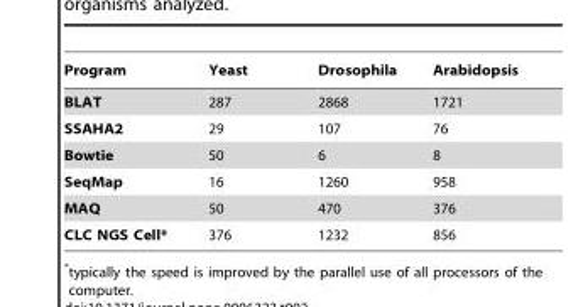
<table><thead><tr><td>Program</td><td>Yeast</td><td>Drosophila</td><td>Arabidopsis</td></tr></thead><tbody><tr><td>BLAT</td><td>287</td><td>2868</td><td>1721</td></tr><tr><td>SSAHA2</td><td>29</td><td>107</td><td>76</td></tr><tr><td>Bowtie</td><td>50</td><td>6</td><td>8</td></tr><tr><td>SeqMap</td><td>16</td><td>1260</td><td>958</td></tr><tr><td>MAQ</td><td>50</td><td>470</td><td>376</td></tr><tr><td>CLC NGS Cell*</td><td>376</td><td>1232</td><td>856</td></tr></tbody></table>